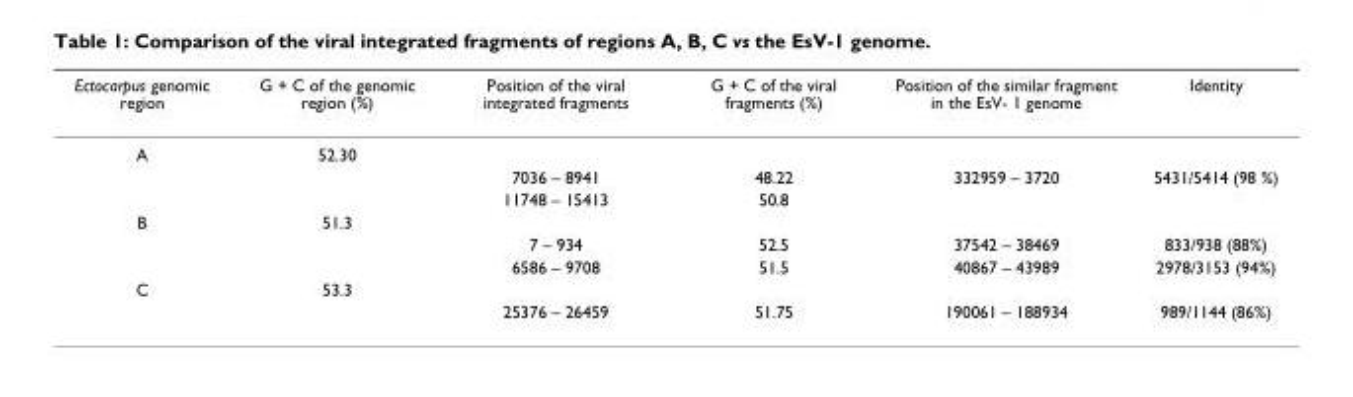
<table><thead><tr><td>Ectocarpus genomic region</td><td>G + C of the genomic region (%)</td><td>Position of the viral integrated fragments</td><td>G + C of the viral fragments (%)</td><td>Position of the similar fragment in the EsV- 1 genome</td><td>Identity</td></tr></thead><tbody><tr><td rowspan="3">A</td><td>52.30</td><td></td><td></td><td></td><td></td></tr><tr><td></td><td>7036 – 8941</td><td>48.22</td><td>332959 – 3720</td><td>5431/5414 (98 %)</td></tr><tr><td></td><td>11748 – 15413</td><td>50.8</td><td></td><td></td></tr><tr><td rowspan="3">B</td><td>51.3</td><td></td><td></td><td></td><td></td></tr><tr><td></td><td>7 – 934</td><td>52.5</td><td>37542 – 38469</td><td>833/938 (88%)</td></tr><tr><td></td><td>6586 – 9708</td><td>51.5</td><td>40867 – 43989</td><td>2978/3153 (94%)</td></tr><tr><td rowspan="2">C</td><td>53.3</td><td></td><td></td><td></td><td></td></tr><tr><td></td><td>25376 – 26459</td><td>51.75</td><td>190061 – 188934</td><td>989/1144 (86%)</td></tr></tbody></table>